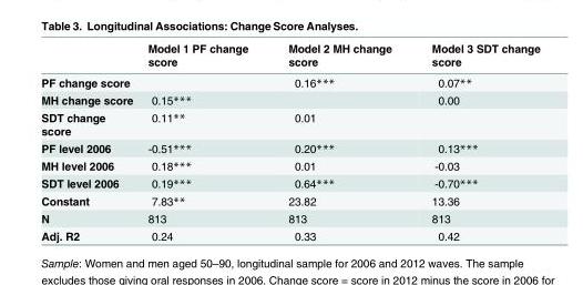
<table><thead><tr><td></td><td>Model 1 PF change score</td><td>Model 2 MH change score</td><td>Model 3 SDT change score</td></tr></thead><tbody><tr><td>PF change score</td><td></td><td>0.16***</td><td>0.07**</td></tr><tr><td>MH change score</td><td>0.15***</td><td></td><td>0.00</td></tr><tr><td>SDT change score</td><td>0.11**</td><td>0.01</td><td></td></tr><tr><td>PF level 2006</td><td>-0.51***</td><td>0.20***</td><td>0.13***</td></tr><tr><td>MH level 2006</td><td>0.18***</td><td>0.01</td><td>-0.03</td></tr><tr><td>SDT level 2006</td><td>0.19***</td><td>0.64***</td><td>-0.70***</td></tr><tr><td>Constant</td><td>7.83**</td><td>23.82</td><td>13.36</td></tr><tr><td>N</td><td>813</td><td>813</td><td>813</td></tr><tr><td>Adj. R2</td><td>0.24</td><td>0.33</td><td>0.42</td></tr></tbody></table>